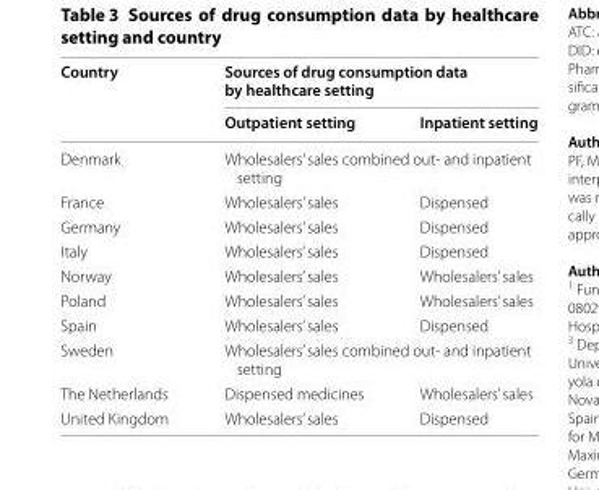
<table><thead><tr><td rowspan="2">Country</td><td colspan="2">Sources of drug consumption data by healthcare setting</td></tr><tr><td>Outpatient setting</td><td>Inpatient setting</td></tr></thead><tbody><tr><td>Denmark</td><td colspan="2">Wholesalers’ sales combined out‑ and inpatient setting</td></tr><tr><td>France</td><td>Wholesalers’ sales</td><td>Dispensed</td></tr><tr><td>Germany</td><td>Wholesalers’ sales</td><td>Dispensed</td></tr><tr><td>Italy</td><td>Wholesalers’ sales</td><td>Dispensed</td></tr><tr><td>Norway</td><td>Wholesalers’ sales</td><td>Wholesalers’ sales</td></tr><tr><td>Poland</td><td>Wholesalers’ sales</td><td>Wholesalers’ sales</td></tr><tr><td>Spain</td><td>Wholesalers’ sales</td><td>Dispensed</td></tr><tr><td>Sweden</td><td colspan="2">Wholesalers’ sales combined out‑ and inpatient setting</td></tr><tr><td>The Netherlands</td><td>Dispensed medicines</td><td>Wholesalers’ sales</td></tr><tr><td>United Kingdom</td><td>Wholesalers’ sales</td><td>Dispensed</td></tr></tbody></table>